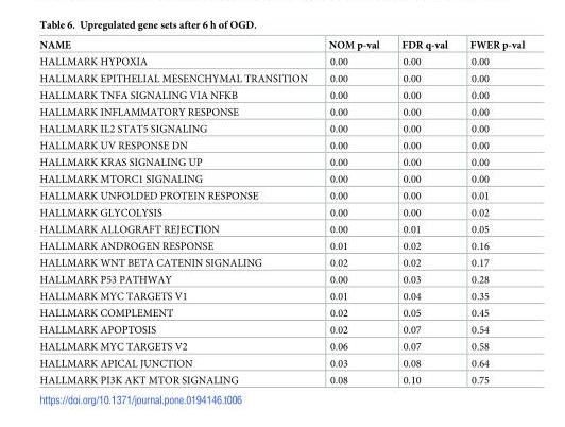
<table><thead><tr><td>NAME</td><td>NOM p-val</td><td>FDR q-val</td><td>FWER p-val</td></tr></thead><tbody><tr><td>HALLMARK HYPOXIA</td><td>0.00</td><td>0.00</td><td>0.00</td></tr><tr><td>HALLMARK EPITHELIAL MESENCHYMAL TRANSITION</td><td>0.00</td><td>0.00</td><td>0.00</td></tr><tr><td>HALLMARK TNFA SIGNALING VIA NFKB</td><td>0.00</td><td>0.00</td><td>0.00</td></tr><tr><td>HALLMARK INFLAMMATORY RESPONSE</td><td>0.00</td><td>0.00</td><td>0.00</td></tr><tr><td>HALLMARK IL2 STAT5 SIGNALING</td><td>0.00</td><td>0.00</td><td>0.00</td></tr><tr><td>HALLMARK UV RESPONSE DN</td><td>0.00</td><td>0.00</td><td>0.00</td></tr><tr><td>HALLMARK KRAS SIGNALING UP</td><td>0.00</td><td>0.00</td><td>0.00</td></tr><tr><td>HALLMARK MTORC1 SIGNALING</td><td>0.00</td><td>0.00</td><td>0.00</td></tr><tr><td>HALLMARK UNFOLDED PROTEIN RESPONSE</td><td>0.00</td><td>0.00</td><td>0.01</td></tr><tr><td>HALLMARK GLYCOLYSIS</td><td>0.00</td><td>0.00</td><td>0.02</td></tr><tr><td>HALLMARK ALLOGRAFT REJECTION</td><td>0.00</td><td>0.01</td><td>0.05</td></tr><tr><td>HALLMARK ANDROGEN RESPONSE</td><td>0.01</td><td>0.02</td><td>0.16</td></tr><tr><td>HALLMARK WNT BETA CATENIN SIGNALING</td><td>0.02</td><td>0.02</td><td>0.17</td></tr><tr><td>HALLMARK P53 PATHWAY</td><td>0.00</td><td>0.03</td><td>0.28</td></tr><tr><td>HALLMARK MYC TARGETS V1</td><td>0.01</td><td>0.04</td><td>0.35</td></tr><tr><td>HALLMARK COMPLEMENT</td><td>0.02</td><td>0.05</td><td>0.45</td></tr><tr><td>HALLMARK APOPTOSIS</td><td>0.02</td><td>0.07</td><td>0.54</td></tr><tr><td>HALLMARK MYC TARGETS V2</td><td>0.06</td><td>0.07</td><td>0.58</td></tr><tr><td>HALLMARK APICAL JUNCTION</td><td>0.03</td><td>0.08</td><td>0.64</td></tr><tr><td>HALLMARK PI3K AKT MTOR SIGNALING</td><td>0.08</td><td>0.10</td><td>0.75</td></tr></tbody></table>